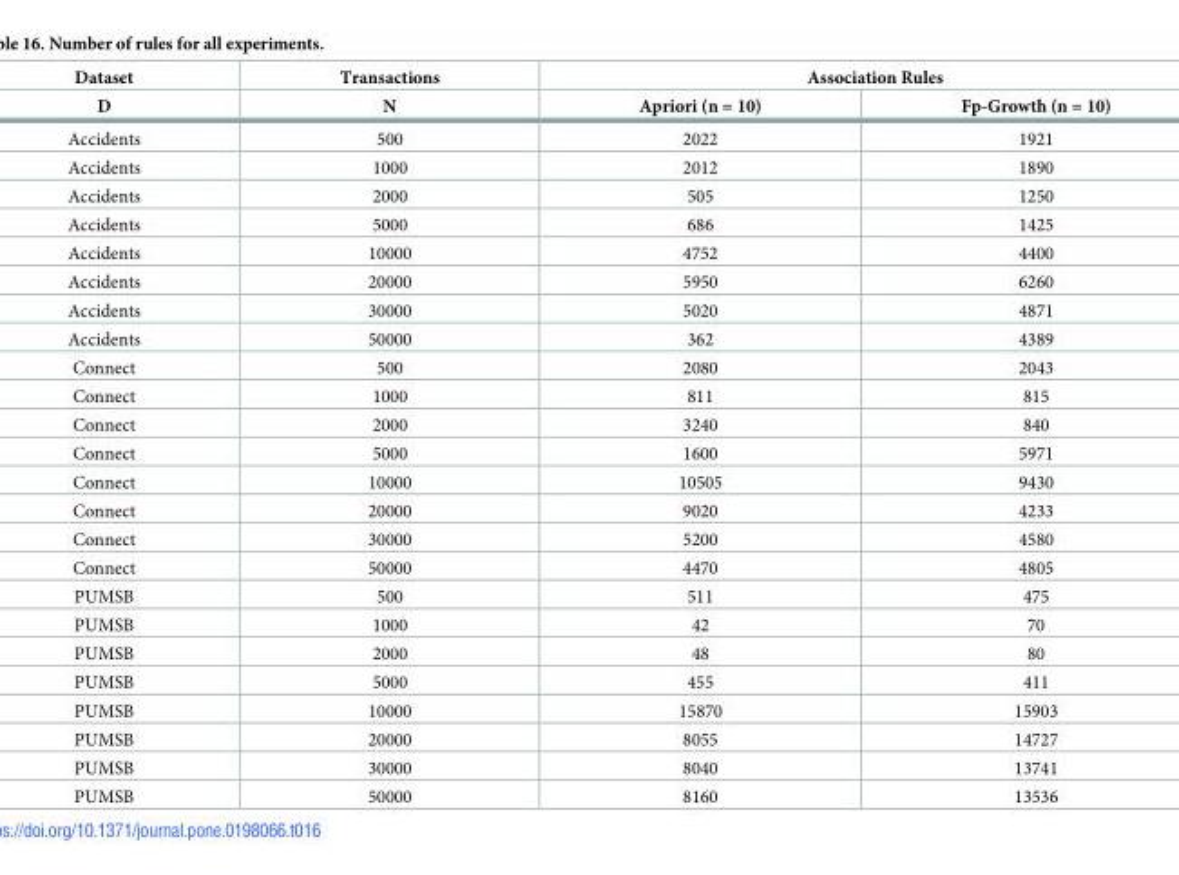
<table><thead><tr><td rowspan="2">Dataset D</td><td rowspan="2">Transactions N</td><td colspan="2">Association Rules</td></tr><tr><td>Apriori (n = 10)</td><td>Fp-Growth (n = 10)</td></tr></thead><tbody><tr><td>Accidents</td><td>500</td><td>2022</td><td>1921</td></tr><tr><td>Accidents</td><td>1000</td><td>2012</td><td>1890</td></tr><tr><td>Accidents</td><td>2000</td><td>505</td><td>1250</td></tr><tr><td>Accidents</td><td>5000</td><td>686</td><td>1425</td></tr><tr><td>Accidents</td><td>10000</td><td>4752</td><td>4400</td></tr><tr><td>Accidents</td><td>20000</td><td>5950</td><td>6260</td></tr><tr><td>Accidents</td><td>30000</td><td>5020</td><td>4871</td></tr><tr><td>Accidents</td><td>50000</td><td>362</td><td>4389</td></tr><tr><td>Connect</td><td>500</td><td>2080</td><td>2043</td></tr><tr><td>Connect</td><td>1000</td><td>811</td><td>815</td></tr><tr><td>Connect</td><td>2000</td><td>3240</td><td>840</td></tr><tr><td>Connect</td><td>5000</td><td>1600</td><td>5971</td></tr><tr><td>Connect</td><td>10000</td><td>10505</td><td>9430</td></tr><tr><td>Connect</td><td>20000</td><td>9020</td><td>4233</td></tr><tr><td>Connect</td><td>30000</td><td>5200</td><td>4580</td></tr><tr><td>Connect</td><td>50000</td><td>4470</td><td>4805</td></tr><tr><td>PUMSB</td><td>500</td><td>511</td><td>475</td></tr><tr><td>PUMSB</td><td>1000</td><td>42</td><td>70</td></tr><tr><td>PUMSB</td><td>2000</td><td>48</td><td>80</td></tr><tr><td>PUMSB</td><td>5000</td><td>455</td><td>411</td></tr><tr><td>PUMSB</td><td>10000</td><td>15870</td><td>15903</td></tr><tr><td>PUMSB</td><td>20000</td><td>8055</td><td>14727</td></tr><tr><td>PUMSB</td><td>30000</td><td>8040</td><td>13741</td></tr><tr><td>PUMSB</td><td>50000</td><td>8160</td><td>13536</td></tr></tbody></table>